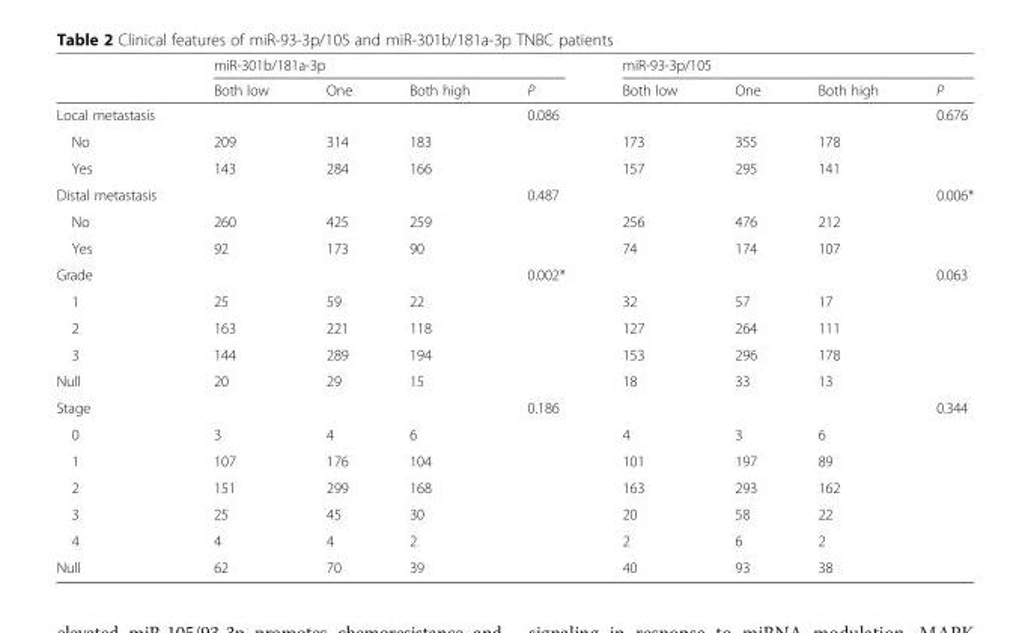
<table><thead><tr><td rowspan="2"></td><td colspan="4">miR-301b/181a-3p</td><td colspan="4">miR-93-3p/105</td></tr><tr><td>Both low</td><td>One</td><td>Both high</td><td>P</td><td>Both low</td><td>One</td><td>Both high</td><td>P</td></tr></thead><tbody><tr><td>Local metastasis</td><td></td><td></td><td></td><td>0.086</td><td></td><td></td><td></td><td>0.676</td></tr><tr><td>No</td><td>209</td><td>314</td><td>183</td><td></td><td>173</td><td>355</td><td>178</td><td rowspan="2"></td></tr><tr><td>Yes</td><td>143</td><td>284</td><td>166</td><td></td><td>157</td><td>295</td><td>141</td></tr><tr><td>Distal metastasis</td><td></td><td></td><td></td><td>0.487</td><td></td><td></td><td></td><td>0.006*</td></tr><tr><td>No</td><td>260</td><td>425</td><td>259</td><td></td><td>256</td><td>476</td><td>212</td><td rowspan="2"></td></tr><tr><td>Yes</td><td>92</td><td>173</td><td>90</td><td></td><td>74</td><td>174</td><td>107</td></tr><tr><td>Grade</td><td></td><td></td><td></td><td>0.002*</td><td></td><td></td><td></td><td>0.063</td></tr><tr><td>1</td><td>25</td><td>59</td><td>22</td><td></td><td>32</td><td>57</td><td>17</td><td rowspan="4"></td></tr><tr><td>2</td><td>163</td><td>221</td><td>118</td><td></td><td>127</td><td>264</td><td>111</td></tr><tr><td>3</td><td>144</td><td>289</td><td>194</td><td></td><td>153</td><td>296</td><td>178</td></tr><tr><td>Null</td><td>20</td><td>29</td><td>15</td><td></td><td>18</td><td>33</td><td>13</td></tr><tr><td>Stage</td><td></td><td></td><td></td><td>0.186</td><td></td><td></td><td></td><td>0.344</td></tr><tr><td>0</td><td>3</td><td>4</td><td>6</td><td></td><td>4</td><td>3</td><td>6</td><td rowspan="6"></td></tr><tr><td>1</td><td>107</td><td>176</td><td>104</td><td></td><td>101</td><td>197</td><td>89</td></tr><tr><td>2</td><td>151</td><td>299</td><td>168</td><td></td><td>163</td><td>293</td><td>162</td></tr><tr><td>3</td><td>25</td><td>45</td><td>30</td><td></td><td>20</td><td>58</td><td>22</td></tr><tr><td>4</td><td>4</td><td>4</td><td>2</td><td></td><td>2</td><td>6</td><td>2</td></tr><tr><td>Null</td><td>62</td><td>70</td><td>39</td><td></td><td>40</td><td>93</td><td>38</td></tr></tbody></table>